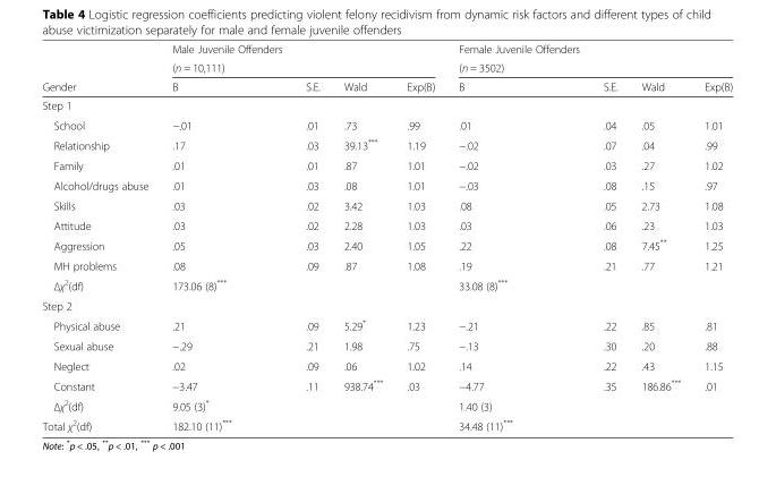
<table><thead><tr><td rowspan="3">Gender</td><td>Male Juvenile Offenders</td><td></td><td></td><td></td><td>Female Juvenile Offenders</td><td></td><td></td><td></td></tr><tr><td colspan="4">(n = 10,111)</td><td colspan="4">(n = 3502)</td></tr><tr><td>B</td><td>S.E.</td><td>Wald</td><td>Exp(B)</td><td>B</td><td>S.E.</td><td>Wald</td><td>Exp(B)</td></tr></thead><tbody><tr><td colspan="9">Step 1</td></tr><tr><td>School</td><td>−.01</td><td>.01</td><td>.73</td><td>.99</td><td>.01</td><td>.04</td><td>.05</td><td>1.01</td></tr><tr><td>Relationship</td><td>.17</td><td>.03</td><td>39.13***</td><td>1.19</td><td>−.02</td><td>.07</td><td>.04</td><td>.99</td></tr><tr><td>Family</td><td>.01</td><td>.01</td><td>.87</td><td>1.01</td><td>−.02</td><td>.03</td><td>.27</td><td>1.02</td></tr><tr><td>Alcohol/drugs abuse</td><td>.01</td><td>.03</td><td>.08</td><td>1.01</td><td>−.03</td><td>.08</td><td>.15</td><td>.97</td></tr><tr><td>Skills</td><td>.03</td><td>.02</td><td>3.42</td><td>1.03</td><td>.08</td><td>.05</td><td>2.73</td><td>1.08</td></tr><tr><td>Attitude</td><td>.03</td><td>.02</td><td>2.28</td><td>1.03</td><td>.03</td><td>.06</td><td>.23</td><td>1.03</td></tr><tr><td>Aggression</td><td>.05</td><td>.03</td><td>2.40</td><td>1.05</td><td>.22</td><td>.08</td><td>7.45**</td><td>1.25</td></tr><tr><td>MH problems</td><td>.08</td><td>.09</td><td>.87</td><td>1.08</td><td>.19</td><td>.21</td><td>.77</td><td>1.21</td></tr><tr><td>Δχ2(df)</td><td colspan="4">173.06 (8)***</td><td colspan="4">33.08 (8)***</td></tr><tr><td colspan="9">Step 2</td></tr><tr><td>Physical abuse</td><td>.21</td><td>.09</td><td>5.29*</td><td>1.23</td><td>−.21</td><td>.22</td><td>.85</td><td>.81</td></tr><tr><td>Sexual abuse</td><td>−.29</td><td>.21</td><td>1.98</td><td>.75</td><td>−.13</td><td>.30</td><td>.20</td><td>.88</td></tr><tr><td>Neglect</td><td>.02</td><td>.09</td><td>.06</td><td>1.02</td><td>.14</td><td>.22</td><td>.43</td><td>1.15</td></tr><tr><td>Constant</td><td>−3.47</td><td>.11</td><td>938.74***</td><td>.03</td><td>−4.77</td><td>.35</td><td>186.86***</td><td>.01</td></tr><tr><td>Δχ2(df)</td><td colspan="4">9.05 (3)*</td><td colspan="4">1.40 (3)</td></tr><tr><td>Total χ<sup>2</sup>(df)</td><td colspan="4">182.10 (11)***</td><td colspan="4">34.48 (11)***</td></tr></tbody></table>